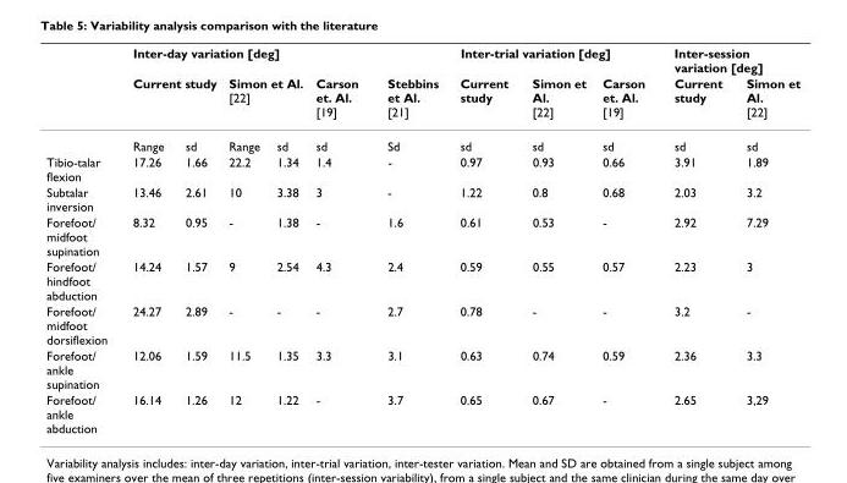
<table><thead><tr><td rowspan="3"></td><td colspan="6">Inter-day variation [deg]</td><td colspan="3">Inter-trial variation [deg]</td><td colspan="2">Inter-session variation [deg]</td></tr><tr><td colspan="2">Current study</td><td colspan="2">Simon et Al. [22]</td><td rowspan="2">Carson et. Al. [19] sd</td><td rowspan="2">Stebbins et Al. [21] Sd</td><td rowspan="2">Current study sd</td><td rowspan="2">Simon et Al. [22] sd</td><td rowspan="2">Carson et. Al. [19] sd</td><td rowspan="2">Current study sd</td><td rowspan="2">Simon et Al. [22] sd</td></tr><tr><td>Range</td><td>sd</td><td>Range</td><td>sd</td></tr></thead><tbody><tr><td>Tibio-talar flexion</td><td>17.26</td><td>1.66</td><td>22.2</td><td>1.34</td><td>1.4</td><td>-</td><td>0.97</td><td>0.93</td><td>0.66</td><td>3.91</td><td>1.89</td></tr><tr><td>Subtalar inversion</td><td>13.46</td><td>2.61</td><td>10</td><td>3.38</td><td>3</td><td>-</td><td>1.22</td><td>0.8</td><td>0.68</td><td>2.03</td><td>3.2</td></tr><tr><td>Forefoot/ midfoot supination</td><td>8.32</td><td>0.95</td><td>-</td><td>1.38</td><td>-</td><td>1.6</td><td>0.61</td><td>0.53</td><td>-</td><td>2.92</td><td>7.29</td></tr><tr><td>Forefoot/ hindfoot abduction</td><td>14.24</td><td>1.57</td><td>9</td><td>2.54</td><td>4.3</td><td>2.4</td><td>0.59</td><td>0.55</td><td>0.57</td><td>2.23</td><td>3</td></tr><tr><td>Forefoot/ midfoot dorsiflexion</td><td>24.27</td><td>2.89</td><td>-</td><td>-</td><td>-</td><td>2.7</td><td>0.78</td><td>-</td><td>-</td><td>3.2</td><td>-</td></tr><tr><td>Forefoot/ ankle supination</td><td>12.06</td><td>1.59</td><td>11.5</td><td>1.35</td><td>3.3</td><td>3.1</td><td>0.63</td><td>0.74</td><td>0.59</td><td>2.36</td><td>3.3</td></tr><tr><td>Forefoot/ ankle abduction</td><td>16.14</td><td>1.26</td><td>12</td><td>1.22</td><td>-</td><td>3.7</td><td>0.65</td><td>0.67</td><td>-</td><td>2.65</td><td>3,29</td></tr></tbody></table>